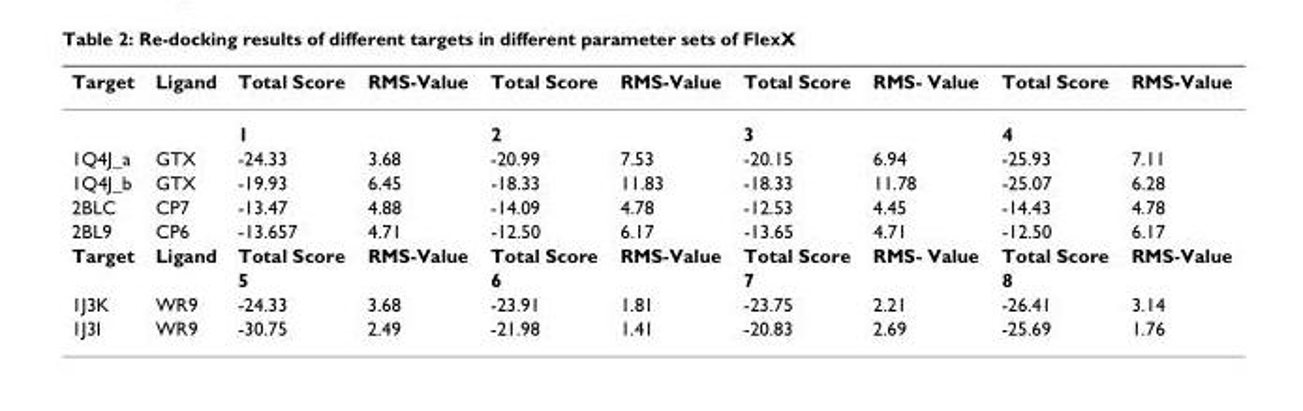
<table><thead><tr><td>Target</td><td>Ligand</td><td>Total Score</td><td>RMS-Value</td><td>Total Score</td><td>RMS-Value</td><td>Total Score</td><td>RMS- Value</td><td>Total Score</td><td>RMS-Value</td></tr></thead><tbody><tr><td></td><td></td><td>1</td><td></td><td>2</td><td></td><td>3</td><td></td><td>4</td><td></td></tr><tr><td>1Q4J_a</td><td>GTX</td><td>-24.33</td><td>3.68</td><td>-20.99</td><td>7.53</td><td>-20.15</td><td>6.94</td><td>-25.93</td><td>7.11</td></tr><tr><td>1Q4J_b</td><td>GTX</td><td>-19.93</td><td>6.45</td><td>-18.33</td><td>11.83</td><td>-18.33</td><td>11.78</td><td>-25.07</td><td>6.28</td></tr><tr><td>2BLC</td><td>CP7</td><td>-13.47</td><td>4.88</td><td>-14.09</td><td>4.78</td><td>-12.53</td><td>4.45</td><td>-14.43</td><td>4.78</td></tr><tr><td>2BL9</td><td>CP6</td><td>-13.657</td><td>4.71</td><td>-12.50</td><td>6.17</td><td>-13.65</td><td>4.71</td><td>-12.50</td><td>6.17</td></tr><tr><td rowspan="2">Target</td><td>Ligand</td><td>Total Score</td><td>RMS-Value</td><td>Total Score</td><td>RMS-Value</td><td>Total Score</td><td>RMS- Value</td><td>Total Score</td><td>RMS-Value</td></tr><tr><td></td><td>5</td><td></td><td>6</td><td></td><td>7</td><td></td><td>8</td><td></td></tr><tr><td>1J3K</td><td>WR9</td><td>-24.33</td><td>3.68</td><td>-23.91</td><td>1.81</td><td>-23.75</td><td>2.21</td><td>-26.41</td><td>3.14</td></tr><tr><td>1J3I</td><td>WR9</td><td>-30.75</td><td>2.49</td><td>-21.98</td><td>1.41</td><td>-20.83</td><td>2.69</td><td>-25.69</td><td>1.76</td></tr></tbody></table>